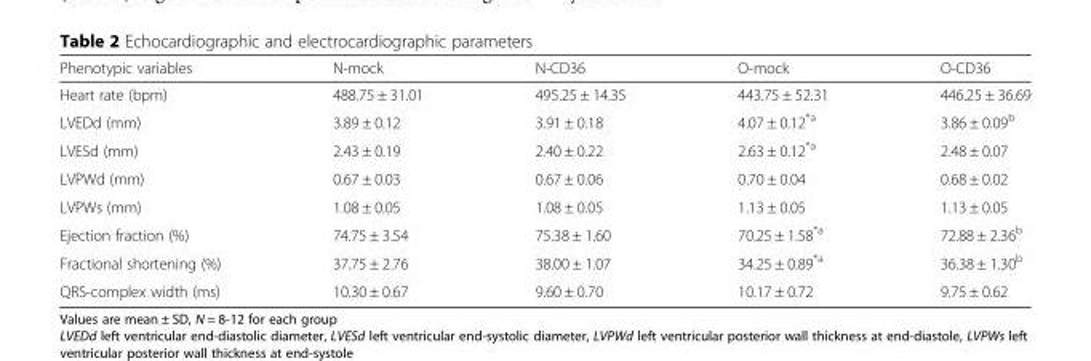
<table><thead><tr><td>Phenotypic variables</td><td>N-mock</td><td>N-CD36</td><td>O-mock</td><td>O-CD36</td></tr></thead><tbody><tr><td>Heart rate (bpm)</td><td>488.75 ± 31.01</td><td>495.25 ± 14.35</td><td>443.75 ± 52.31</td><td>446.25 ± 36.69</td></tr><tr><td>LVEDd (mm)</td><td>3.89 ± 0.12</td><td>3.91 ± 0.18</td><td>4.07 ± 0.12<sup>*a</sup></td><td>3.86 ± 0.09<sup>b</sup></td></tr><tr><td>LVESd (mm)</td><td>2.43 ± 0.19</td><td>2.40 ± 0.22</td><td>2.63 ± 0.12<sup>*a</sup></td><td>2.48 ± 0.07</td></tr><tr><td>LVPWd (mm)</td><td>0.67 ± 0.03</td><td>0.67 ± 0.06</td><td>0.70 ± 0.04</td><td>0.68 ± 0.02</td></tr><tr><td>LVPWs (mm)</td><td>1.08 ± 0.05</td><td>1.08 ± 0.05</td><td>1.13 ± 0.05</td><td>1.13 ± 0.05</td></tr><tr><td>Ejection fraction (%)</td><td>74.75 ± 3.54</td><td>75.38 ± 1.60</td><td>70.25 ± 1.58<sup>*a</sup></td><td>72.88 ± 2.36<sup>b</sup></td></tr><tr><td>Fractional shortening (%)</td><td>37.75 ± 2.76</td><td>38.00 ± 1.07</td><td>34.25 ± 0.89<sup>*a</sup></td><td>36.38 ± 1.30<sup>b</sup></td></tr><tr><td>QRS-complex width (ms)</td><td>10.30 ± 0.67</td><td>9.60 ± 0.70</td><td>10.17 ± 0.72</td><td>9.75 ± 0.62</td></tr></tbody></table>